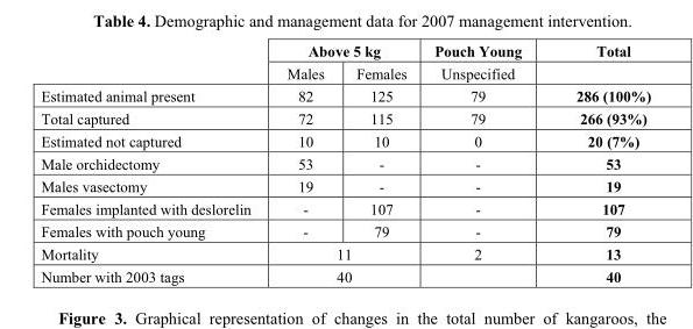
<table><thead><tr><td rowspan="2"></td><td colspan="2">Above 5 kg</td><td rowspan="2">Pouch Young Unspecified</td><td rowspan="2">Total</td></tr><tr><td>Males</td><td>Females</td></tr></thead><tbody><tr><td>Estimated animal present</td><td>82</td><td>125</td><td>79</td><td>286 (100%)</td></tr><tr><td>Total captured</td><td>72</td><td>115</td><td>79</td><td>266 (93%)</td></tr><tr><td>Estimated not captured</td><td>10</td><td>10</td><td>0</td><td>20 (7%)</td></tr><tr><td>Male orchidectomy</td><td>53</td><td>-</td><td>-</td><td>53</td></tr><tr><td>Males vasectomy</td><td>19</td><td>-</td><td>-</td><td>19</td></tr><tr><td>Females implanted with deslorelin</td><td>-</td><td>107</td><td>-</td><td>107</td></tr><tr><td>Females with pouch young</td><td>-</td><td>79</td><td>-</td><td>79</td></tr><tr><td>Mortality</td><td colspan="2">11</td><td>2</td><td>13</td></tr><tr><td>Number with 2003 tags</td><td colspan="2">40</td><td></td><td>40</td></tr></tbody></table>